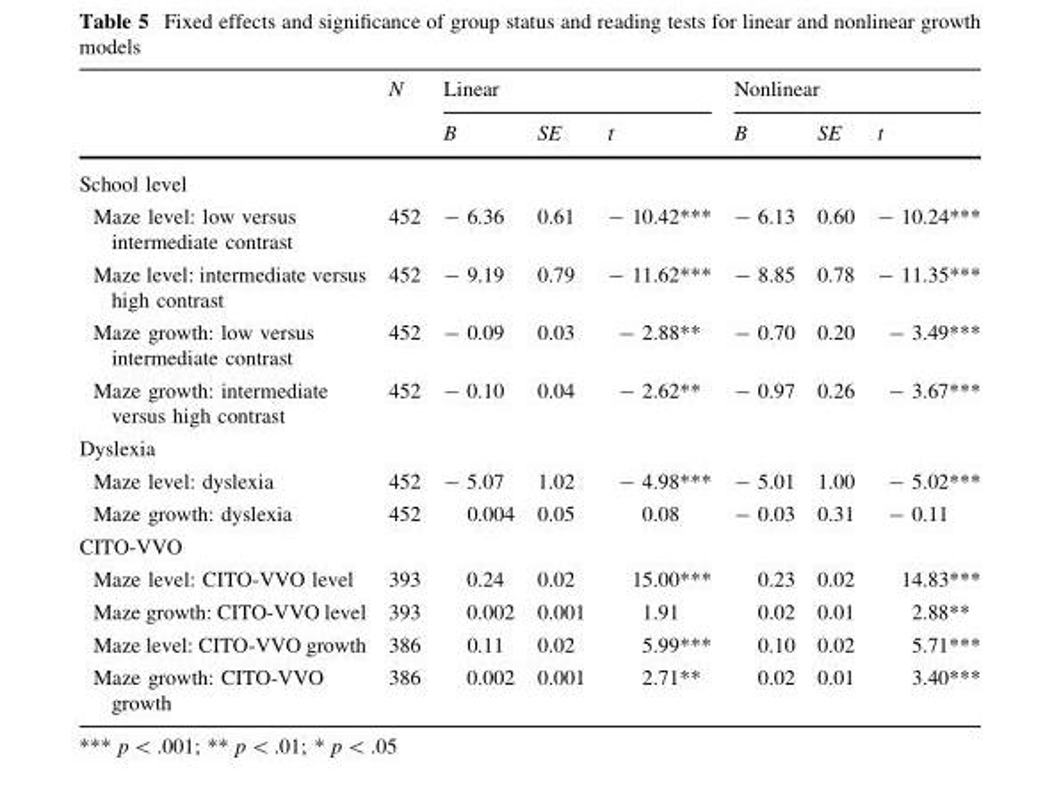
<table><thead><tr><td rowspan="2"></td><td rowspan="2">N</td><td colspan="3">Linear</td><td colspan="3">Nonlinear</td></tr><tr><td>B</td><td>SE</td><td>t</td><td>B</td><td>SE</td><td>t</td></tr></thead><tbody><tr><td colspan="8">School level</td></tr><tr><td>Maze level: low versus intermediate contrast</td><td>452</td><td>- 6.36</td><td>0.61</td><td>- 10.42***</td><td>- 6.13</td><td>0.60</td><td>- 10.24***</td></tr><tr><td>Maze level: intermediate versus high contrast</td><td>452</td><td>- 9.19</td><td>0.79</td><td>- 11.62***</td><td>- 8.85</td><td>0.78</td><td>- 11.35***</td></tr><tr><td>Maze growth: low versus intermediate contrast</td><td>452</td><td>- 0.09</td><td>0.03</td><td>- 2.88**</td><td>- 0.70</td><td>0.20</td><td>- 3.49***</td></tr><tr><td>Maze growth: intermediate versus high contrast</td><td>452</td><td>- 0.10</td><td>0.04</td><td>- 2.62**</td><td>- 0.97</td><td>0.26</td><td>- 3.67***</td></tr><tr><td colspan="8">Dyslexia</td></tr><tr><td>Maze level: dyslexia</td><td>452</td><td>- 5.07</td><td>1.02</td><td>- 4.98***</td><td>- 5.01</td><td>1.00</td><td>- 5.02***</td></tr><tr><td>Maze growth: dyslexia</td><td>452</td><td>0.004</td><td>0.05</td><td>0.08</td><td>- 0.03</td><td>0.31</td><td>- 0.11</td></tr><tr><td colspan="8">CITO-VVO</td></tr><tr><td>Maze level: CITO-VVO level</td><td>393</td><td>0.24</td><td>0.02</td><td>15.00***</td><td>0.23</td><td>0.02</td><td>14.83***</td></tr><tr><td>Maze growth: CITO-VVO level</td><td>393</td><td>0.002</td><td>0.001</td><td>1.91</td><td>0.02</td><td>0.01</td><td>2.88**</td></tr><tr><td>Maze level: CITO-VVO growth</td><td>386</td><td>0.11</td><td>0.02</td><td>5.99***</td><td>0.10</td><td>0.02</td><td>5.71***</td></tr><tr><td>Maze growth: CITO-VVO growth</td><td>386</td><td>0.002</td><td>0.001</td><td>2.71**</td><td>0.02</td><td>0.01</td><td>3.40***</td></tr></tbody></table>